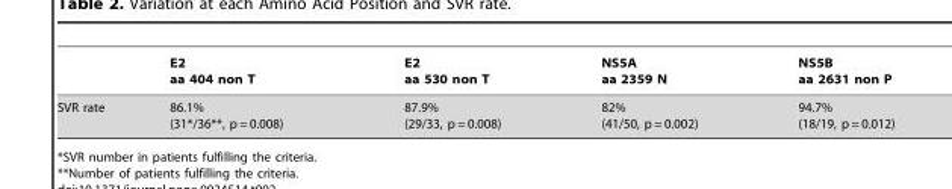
<table><thead><tr><td></td><td>E2 aa 404 non T</td><td>E2 aa 530 non T</td><td>NS5A aa 2359 N</td><td>NS5B aa 2631 non P</td></tr></thead><tbody><tr><td>SVR rate</td><td>86.1% (31*/36**, p = 0.008)</td><td>87.9% (29/33, p = 0.008)</td><td>82% (41/50, p = 0.002)</td><td>94.7% (18/19, p = 0.012)</td></tr></tbody></table>